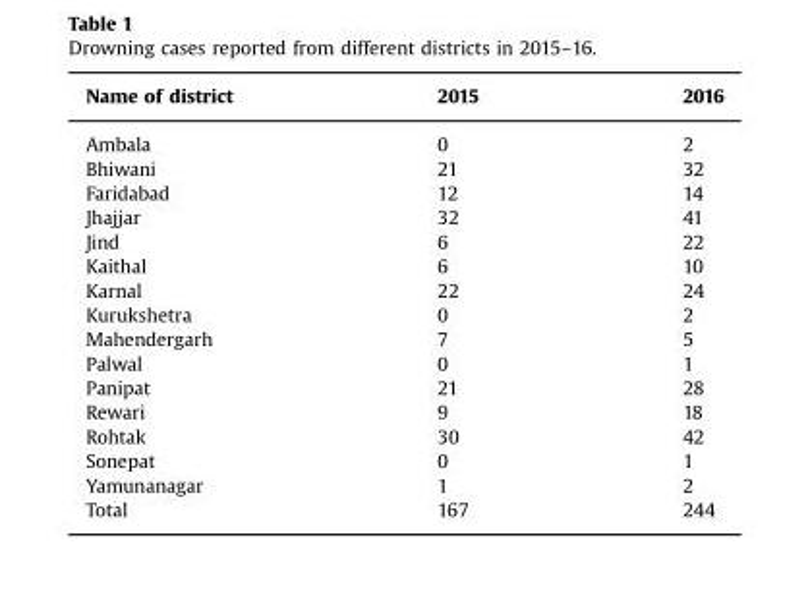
<table><thead><tr><td>Name of district</td><td>2015</td><td>2016</td></tr></thead><tbody><tr><td>Ambala</td><td>0</td><td>2</td></tr><tr><td>Bhiwani</td><td>21</td><td>32</td></tr><tr><td>Faridabad</td><td>12</td><td>14</td></tr><tr><td>Jhajjar</td><td>32</td><td>41</td></tr><tr><td>Jind</td><td>6</td><td>22</td></tr><tr><td>Kaithal</td><td>6</td><td>10</td></tr><tr><td>Karnal</td><td>22</td><td>24</td></tr><tr><td>Kurukshetra</td><td>0</td><td>2</td></tr><tr><td>Mahendergarh</td><td>7</td><td>5</td></tr><tr><td>Palwal</td><td>0</td><td>1</td></tr><tr><td>Panipat</td><td>21</td><td>28</td></tr><tr><td>Rewari</td><td>9</td><td>18</td></tr><tr><td>Rohtak</td><td>30</td><td>42</td></tr><tr><td>Sonepat</td><td>0</td><td>1</td></tr><tr><td>Yamunanagar</td><td>1</td><td>2</td></tr><tr><td>Total</td><td>167</td><td>244</td></tr></tbody></table>